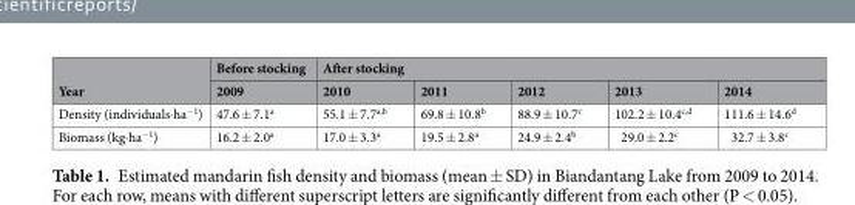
<table><thead><tr><td rowspan="2">Year</td><td rowspan="2">Before stocking 2009</td><td colspan="5">After stocking</td></tr><tr><td>2010</td><td>2011</td><td>2012</td><td>2013</td><td>2014</td></tr></thead><tbody><tr><td>Density (individuals∙ha<sup>−1</sup>)</td><td>47.6 ± 7.1<sup>a</sup></td><td>55.1 ± 7.7<sup>a,b</sup></td><td>69.8 ± 10.8<sup>b</sup></td><td>88.9 ± 10.7<sup>c</sup></td><td>102.2 ± 10.4<sup>c,d</sup></td><td>111.6 ± 14.6<sup>d</sup></td></tr><tr><td>Biomass (kg∙ha<sup>−1</sup>)</td><td>16.2 ± 2.0<sup>a</sup></td><td>17.0 ± 3.3<sup>a</sup></td><td>19.5 ± 2.8<sup>a</sup></td><td>24.9 ± 2.4<sup>b</sup></td><td>29.0 ± 2.2<sup>c</sup></td><td>32.7 ± 3.8<sup>c</sup></td></tr></tbody></table>